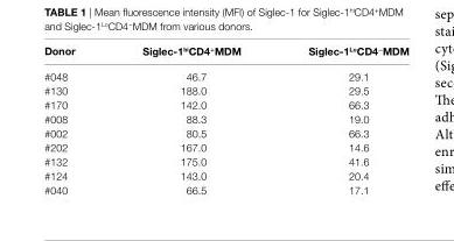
<table><thead><tr><td>Donor</td><td>siglec-1<sup>hi</sup>cD4<sup>+</sup>MDM</td><td>siglec-1<sup>lo</sup>cD4<sup>−</sup>MDM</td></tr></thead><tbody><tr><td>#048</td><td>46.7</td><td>29.1</td></tr><tr><td>#130</td><td>188.0</td><td>29.5</td></tr><tr><td>#170</td><td>142.0</td><td>66.3</td></tr><tr><td>#008</td><td>88.3</td><td>19.0</td></tr><tr><td>#002</td><td>80.5</td><td>66.3</td></tr><tr><td>#202</td><td>167.0</td><td>14.6</td></tr><tr><td>#132</td><td>175.0</td><td>41.6</td></tr><tr><td>#124</td><td>143.0</td><td>20.4</td></tr><tr><td>#040</td><td>66.5</td><td>17.1</td></tr></tbody></table>